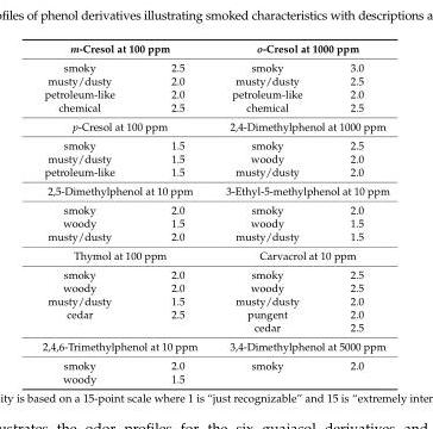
<table><thead><tr><td colspan="2">m-Cresol at 100 ppm</td><td colspan="2">o-Cresol at 1000 ppm</td></tr><tr><td>smoky</td><td>2.5</td><td>smoky</td><td>3.0</td></tr></thead><tbody><tr><td>musty/dusty</td><td>2.0</td><td>musty/dusty</td><td>2.5</td></tr><tr><td>petroleum-like</td><td>2.0</td><td>petroleum-like</td><td>2.0</td></tr><tr><td>chemical</td><td>2.5</td><td>chemical</td><td>2.5</td></tr><tr><td colspan="2">p-Cresol at 100 ppm</td><td colspan="2">2,4-Dimethylphenol at 1000 ppm</td></tr><tr><td>smoky</td><td>1.5</td><td>smoky</td><td>2.5</td></tr><tr><td>musty/dusty</td><td>1.5</td><td>woody</td><td>2.0</td></tr><tr><td>petroleum-like</td><td>1.5</td><td>musty/dusty</td><td>2.0</td></tr><tr><td colspan="2">2,5-Dimethylphenol at 10 ppm</td><td colspan="2">3-Ethyl-5-methylphenol at 10 ppm</td></tr><tr><td>smoky</td><td>2.0</td><td>smoky</td><td>2.0</td></tr><tr><td>woody</td><td>1.5</td><td>woody</td><td>1.5</td></tr><tr><td>musty/dusty</td><td>2.0</td><td>musty/dusty</td><td>1.5</td></tr><tr><td colspan="2">Thymol at 100 ppm</td><td colspan="2">Carvacrol at 10 ppm</td></tr><tr><td>smoky</td><td>2.0</td><td>smoky</td><td>2.5</td></tr><tr><td>woody</td><td>2.0</td><td>woody</td><td>2.5</td></tr><tr><td>musty/dusty</td><td>1.5</td><td>musty/dusty</td><td>2.0</td></tr><tr><td rowspan="2">cedar</td><td>2.5</td><td>pungent</td><td>2.0</td></tr><tr><td></td><td>cedar</td><td>2.5</td></tr><tr><td colspan="2">2,4,6-Trimethylphenol at 10 ppm</td><td colspan="2">3,4-Dimethylphenol at 5000 ppm</td></tr><tr><td>smoky</td><td>2.0</td><td>smoky</td><td>2.0</td></tr><tr><td>woody</td><td>1.5</td><td></td><td></td></tr></tbody></table>